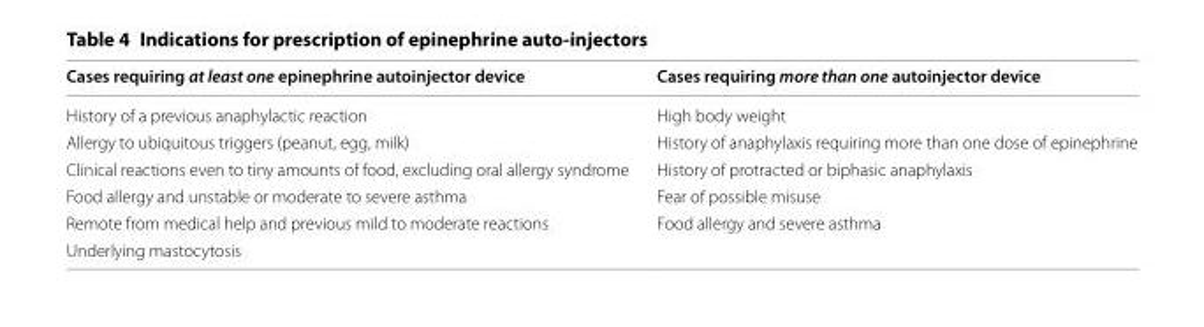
<table><thead><tr><td>Cases requiring at least one epinephrine autoinjector device</td><td>Cases requiring more than one autoinjector device</td></tr></thead><tbody><tr><td>History of a previous anaphylactic reaction</td><td>High body weight</td></tr><tr><td>Allergy to ubiquitous triggers (peanut, egg, milk)</td><td>History of anaphylaxis requiring more than one dose of epinephrine</td></tr><tr><td>Clinical reactions even to tiny amounts of food, excluding oral allergy syndrome</td><td>History of protracted or biphasic anaphylaxis</td></tr><tr><td>Food allergy and unstable or moderate to severe asthma</td><td>Fear of possible misuse</td></tr><tr><td>Remote from medical help and previous mild to moderate reactions</td><td>Food allergy and severe asthma</td></tr><tr><td>Underlying mastocytosis</td><td></td></tr></tbody></table>